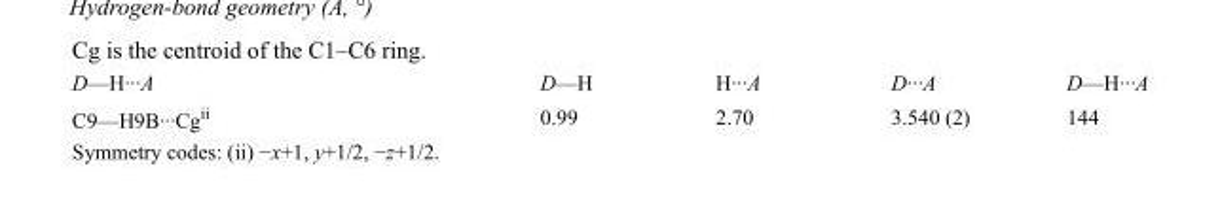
<table><tbody><tr><td>D—H···A</td><td>D—H</td><td>H···A</td><td>D···A</td><td>D—H···A</td></tr><tr><td>C9—H9B···Cg<sup>ii</sup></td><td>0.99</td><td>2.70</td><td>3.540 (2)</td><td>144</td></tr></tbody></table>